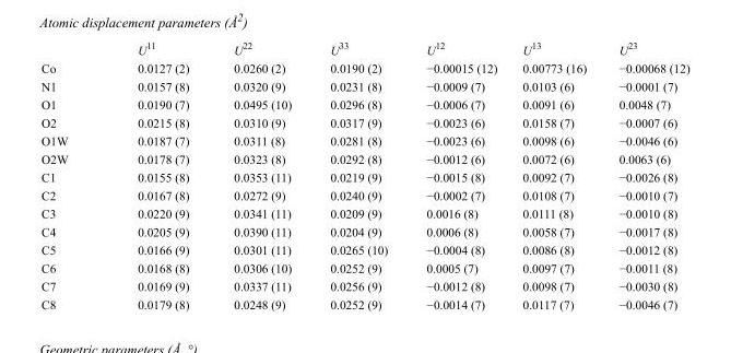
<table><thead><tr><td></td><td>U<sup>11</sup></td><td>U<sup>22</sup></td><td>U<sup>33</sup></td><td>U<sup>12</sup></td><td>U<sup>13</sup></td><td>U<sup>23</sup></td></tr></thead><tbody><tr><td>Co</td><td>0.0127 (2)</td><td>0.0260 (2)</td><td>0.0190 (2)</td><td>−0.00015 (12)</td><td>0.00773 (16)</td><td>−0.00068 (12)</td></tr><tr><td>N1</td><td>0.0157 (8)</td><td>0.0320 (9)</td><td>0.0231 (8)</td><td>−0.0009 (7)</td><td>0.0103 (6)</td><td>−0.0001 (7)</td></tr><tr><td>O1</td><td>0.0190 (7)</td><td>0.0495 (10)</td><td>0.0296 (8)</td><td>−0.0006 (7)</td><td>0.0091 (6)</td><td>0.0048 (7)</td></tr><tr><td>O2</td><td>0.0215 (8)</td><td>0.0310 (9)</td><td>0.0317 (9)</td><td>−0.0023 (6)</td><td>0.0158 (7)</td><td>−0.0007 (6)</td></tr><tr><td>O1W</td><td>0.0187 (7)</td><td>0.0311 (8)</td><td>0.0281 (8)</td><td>−0.0023 (6)</td><td>0.0098 (6)</td><td>−0.0046 (6)</td></tr><tr><td>O2W</td><td>0.0178 (7)</td><td>0.0323 (8)</td><td>0.0292 (8)</td><td>−0.0012 (6)</td><td>0.0072 (6)</td><td>0.0063 (6)</td></tr><tr><td>C1</td><td>0.0155 (8)</td><td>0.0353 (11)</td><td>0.0219 (9)</td><td>−0.0015 (8)</td><td>0.0092 (7)</td><td>−0.0026 (8)</td></tr><tr><td>C2</td><td>0.0167 (8)</td><td>0.0272 (9)</td><td>0.0240 (9)</td><td>−0.0002 (7)</td><td>0.0108 (7)</td><td>−0.0010 (7)</td></tr><tr><td>C3</td><td>0.0220 (9)</td><td>0.0341 (11)</td><td>0.0209 (9)</td><td>0.0016 (8)</td><td>0.0111 (8)</td><td>−0.0010 (8)</td></tr><tr><td>C4</td><td>0.0205 (9)</td><td>0.0390 (11)</td><td>0.0204 (9)</td><td>0.0006 (8)</td><td>0.0058 (7)</td><td>−0.0017 (8)</td></tr><tr><td>C5</td><td>0.0166 (9)</td><td>0.0301 (11)</td><td>0.0265 (10)</td><td>−0.0004 (8)</td><td>0.0086 (8)</td><td>−0.0012 (8)</td></tr><tr><td>C6</td><td>0.0168 (8)</td><td>0.0306 (10)</td><td>0.0252 (9)</td><td>0.0005 (7)</td><td>0.0097 (7)</td><td>−0.0011 (8)</td></tr><tr><td>C7</td><td>0.0169 (9)</td><td>0.0337 (11)</td><td>0.0256 (9)</td><td>−0.0012 (8)</td><td>0.0098 (7)</td><td>−0.0030 (8)</td></tr><tr><td>C8</td><td>0.0179 (8)</td><td>0.0248 (9)</td><td>0.0252 (9)</td><td>−0.0014 (7)</td><td>0.0117 (7)</td><td>−0.0046 (7)</td></tr></tbody></table>